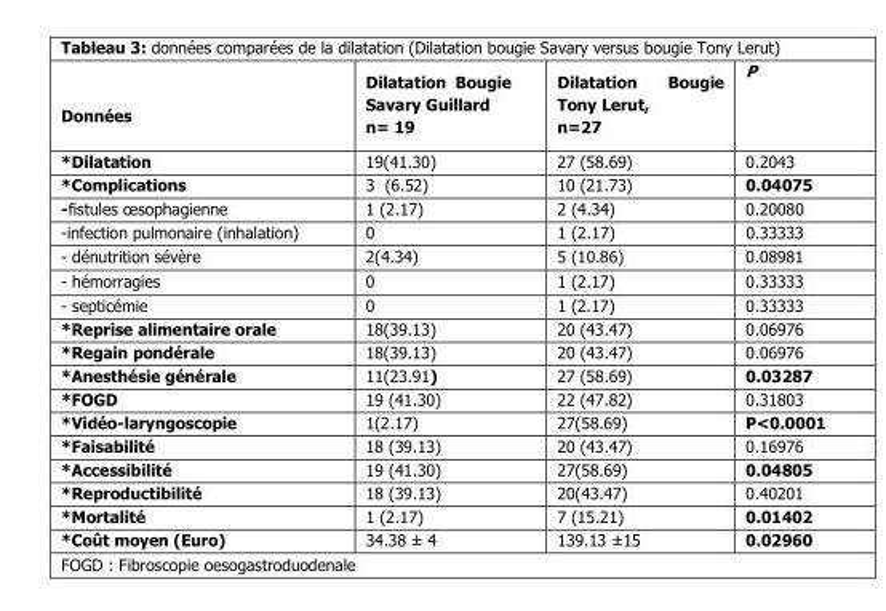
<table><thead><tr><td>Données</td><td>Dilatation Bougie Savary Guillard n= 19</td><td>Dilatation Bougie Tony Lerut, n=27</td><td>P</td></tr></thead><tbody><tr><td>*Dilatation</td><td>19(41.30)</td><td>27 (58.69)</td><td>0.2043</td></tr><tr><td>*Complications</td><td>3 (6.52)</td><td>10 (21.73)</td><td>0.04075</td></tr><tr><td>-fistules œsophagienne</td><td>1 (2.17)</td><td>2 (4.34)</td><td>0.20080</td></tr><tr><td>-infection pulmonaire (inhalation)</td><td>0</td><td>1 (2.17)</td><td>0.33333</td></tr><tr><td>- dénutrition sévère</td><td>2(4.34)</td><td>5 (10.86)</td><td>0.08981</td></tr><tr><td>- hémorragies</td><td>0</td><td>1 (2.17)</td><td>0.33333</td></tr><tr><td>- septicémie</td><td>0</td><td>1 (2.17)</td><td>0.33333</td></tr><tr><td>*Reprise alimentaire orale</td><td>18(39.13)</td><td>20 (43.47)</td><td>0.06976</td></tr><tr><td>*Regain pondérale</td><td>18(39.13)</td><td>20 (43.47)</td><td>0.06976</td></tr><tr><td>*Anesthésie générale</td><td>11(23.91)</td><td>27 (58.69)</td><td>0.03287</td></tr><tr><td>*FOGD</td><td>19 (41.30)</td><td>22 (47.82)</td><td>0.31803</td></tr><tr><td>*Vidéo-laryngoscopie</td><td>1(2.17)</td><td>27(58.69)</td><td>P&lt;0.0001</td></tr><tr><td>*Faisabilité</td><td>18 (39.13)</td><td>20 (43.47)</td><td>0.16976</td></tr><tr><td>*Accessibilité</td><td>19 (41.30)</td><td>27(58.69)</td><td>0.04805</td></tr><tr><td>*Reproductibilité</td><td>18 (39.13)</td><td>20(43.47)</td><td>0.40201</td></tr><tr><td>*Mortalité</td><td>1 (2.17)</td><td>7 (15.21)</td><td>0.01402</td></tr><tr><td>*Coût moyen (Euro)</td><td>34.38 ± 4</td><td>139.13 ±15</td><td>0.02960</td></tr></tbody></table>